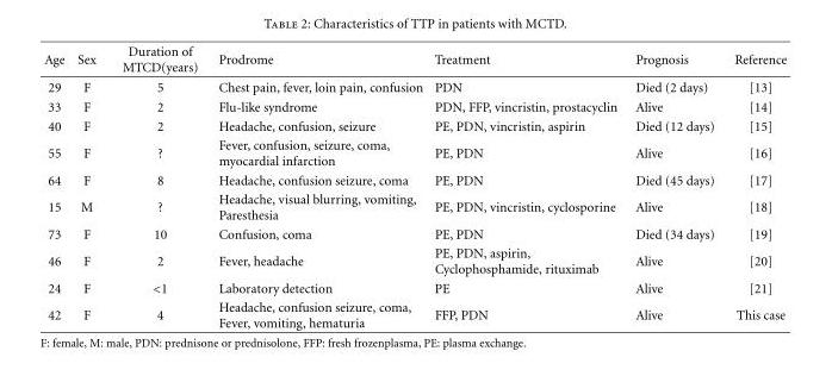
<table><thead><tr><td>Age</td><td>Sex</td><td>Duration of MTCD(years)</td><td>Prodrome</td><td>Treatment</td><td>Prognosis</td><td>Reference</td></tr></thead><tbody><tr><td>29</td><td>F</td><td>5</td><td>Chest pain, fever, loin pain, confusion</td><td>PDN</td><td>Died (2 days)</td><td>[13]</td></tr><tr><td>33</td><td>F</td><td>2</td><td>Flu-like syndrome</td><td>PDN, FFP, vincristin, prostacyclin</td><td>Alive</td><td>[14]</td></tr><tr><td>40</td><td>F</td><td>2</td><td>Headache, confusion, seizure</td><td>PE, PDN, vincristin, aspirin</td><td>Died (12 days)</td><td>[15]</td></tr><tr><td>55</td><td>F</td><td>?</td><td>Fever, confusion, seizure, coma, myocardial infarction</td><td>PE, PDN</td><td>Alive</td><td>[16]</td></tr><tr><td>64</td><td>F</td><td>8</td><td>Headache, confusion seizure, coma</td><td>PE, PDN</td><td>Died (45 days)</td><td>[17]</td></tr><tr><td>15</td><td>M</td><td>?</td><td>Headache, visual blurring, vomiting, Paresthesia</td><td>PE, PDN, vincristin, cyclosporine</td><td>Alive</td><td>[18]</td></tr><tr><td>73</td><td>F</td><td>10</td><td>Confusion, coma</td><td>PE, PDN</td><td>Died (34 days)</td><td>[19]</td></tr><tr><td>46</td><td>F</td><td>2</td><td>Fever, headache</td><td>PE, PDN, aspirin, Cyclophosphamide, rituximab</td><td>Alive</td><td>[20]</td></tr><tr><td>24</td><td>F</td><td>&lt;1</td><td>Laboratory detection</td><td>PE</td><td>Alive</td><td>[21]</td></tr><tr><td>42</td><td>F</td><td>4</td><td>Headache, confusion seizure, coma, Fever, vomiting, hematuria</td><td>FFP, PDN</td><td>Alive</td><td>This case</td></tr></tbody></table>